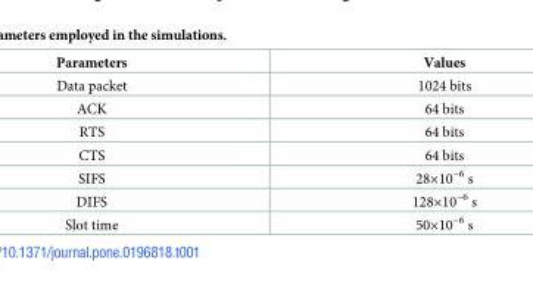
<table><thead><tr><td>Parameters</td><td>Values</td></tr></thead><tbody><tr><td>Data packet</td><td>1024 bits</td></tr><tr><td>ACK</td><td>64 bits</td></tr><tr><td>RTS</td><td>64 bits</td></tr><tr><td>CTS</td><td>64 bits</td></tr><tr><td>SIFS</td><td>28×10<sup>−6</sup> s</td></tr><tr><td>DIFS</td><td>128×10<sup>−6</sup> s</td></tr><tr><td>Slot time</td><td>50×10<sup>−6</sup> s</td></tr></tbody></table>